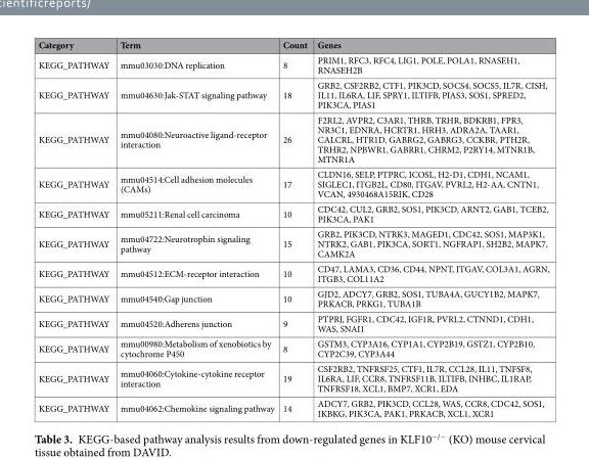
<table><thead><tr><td>Category</td><td>Term</td><td>Count</td><td>Genes</td></tr></thead><tbody><tr><td>KEGG_PATHWAY</td><td>mmu03030:DNA replication</td><td>8</td><td>PRIM1, RFC3, RFC4, LIG1, POLE, POLA1, RNASEH1, RNASEH2B</td></tr><tr><td>KEGG_PATHWAY</td><td>mmu04630:Jak-STAT signaling pathway</td><td>18</td><td>GRB2, CSF2RB2, CTF1, PIK3CD, SOCS4, SOCS5, IL7R, CISH, IL11, IL6RA, LIF, SPRY1, ILTIFB, PIAS3, SOS1, SPRED2, PIK3CA, PIAS1</td></tr><tr><td>KEGG_PATHWAY</td><td>mmu04080:Neuroactive ligand-receptor interaction</td><td>26</td><td>F2RL2, AVPR2, C3AR1, THRB, TRHR, BDKRB1, FPR3, NR3C1, EDNRA, HCRTR1, HRH3, ADRA2A, TAAR1, CALCRL, HTR1D, GABRG2, GABRG3, CCKBR, PTH2R, TRHR2, NPBWR1, GABRR1, CHRM2, P2RY14, MTNR1B, MTNR1A</td></tr><tr><td>KEGG_PATHWAY</td><td>mmu04514:Cell adhesion molecules (CAMs)</td><td>17</td><td>CLDN16, SELP, PTPRC, ICOSL, H2-D1, CDH1, NCAM1, SIGLEC1, ITGB2L, CD80, ITGAV, PVRL2, H2-AA, CNTN1, VCAN, 4930468A15RIK, CD28</td></tr><tr><td>KEGG_PATHWAY</td><td>mmu05211:Renal cell carcinoma</td><td>10</td><td>CDC42, CUL2, GRB2, SOS1, PIK3CD, ARNT2, GAB1, TCEB2, PIK3CA, PAK1</td></tr><tr><td>KEGG_PATHWAY</td><td>mmu04722:Neurotrophin signaling pathway</td><td>15</td><td>GRB2, PIK3CD, NTRK3, MAGED1, CDC42, SOS1, MAP3K1, NTRK2, GAB1, PIK3CA, SORT1, NGFRAP1, SH2B2, MAPK7, CAMK2A</td></tr><tr><td>KEGG_PATHWAY</td><td>mmu04512:ECM-receptor interaction</td><td>10</td><td>CD47, LAMA3, CD36, CD44, NPNT, ITGAV, COL3A1, AGRN, ITGB3, COL11A2</td></tr><tr><td>KEGG_PATHWAY</td><td>mmu04540:Gap junction</td><td>10</td><td>GJD2, ADCY7, GRB2, SOS1, TUBA4A, GUCY1B2, MAPK7, PRKACB, PRKG1, TUBA1B</td></tr><tr><td>KEGG_PATHWAY</td><td>mmu04520:Adherens junction</td><td>9</td><td>PTPRJ, FGFR1, CDC42, IGF1R, PVRL2, CTNND1, CDH1, WAS, SNAI1</td></tr><tr><td>KEGG_PATHWAY</td><td>mmu00980:Metabolism of xenobiotics by cytochrome P450</td><td>8</td><td>GSTM3, CYP3A16, CYP1A1, CYP2B19, GSTZ1, CYP2B10, CYP2C39, CYP3A44</td></tr><tr><td>KEGG_PATHWAY</td><td>mmu04060:Cytokine-cytokine receptor interaction</td><td>19</td><td>CSF2RB2, TNFRSF25, CTF1, IL7R, CCL28, IL11, TNFSF8, IL6RA, LIF, CCR8, TNFRSF11B, ILTIFB, INHBC, IL1RAP, TNFRSF18, XCL1, BMP7, XCR1, EDA</td></tr><tr><td>KEGG_PATHWAY</td><td>mmu04062:Chemokine signaling pathway</td><td>14</td><td>ADCY7, GRB2, PIK3CD, CCL28, WAS, CCR8, CDC42, SOS1, IKBKG, PIK3CA, PAK1, PRKACB, XCL1, XCR1</td></tr></tbody></table>